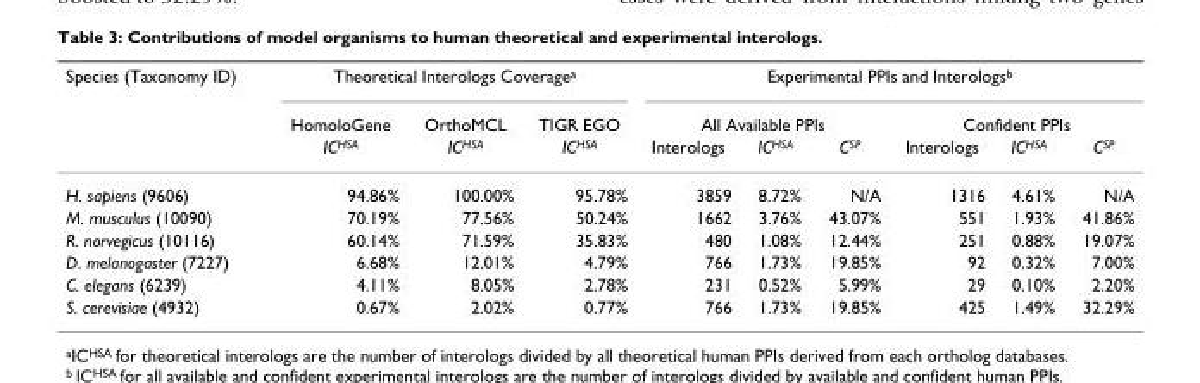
<table><thead><tr><td rowspan="3">Species (Taxonomy ID)</td><td colspan="3">Theoretical Interologs Coverage<sup>a</sup></td><td colspan="6">Experimental PPIs and Interologs<sup>b</sup></td></tr><tr><td rowspan="2">HomoloGene IC<sup>HSA</sup></td><td rowspan="2">OrthoMCL IC<sup>HSA</sup></td><td rowspan="2">TIGR EGO IC<sup>HSA</sup></td><td colspan="3">All Available PPIs</td><td colspan="3">Confident PPIs</td></tr><tr><td>Interologs</td><td>IC<sup>HSA</sup></td><td>C<sup>SP</sup></td><td>Interologs</td><td>IC<sup>HSA</sup></td><td>C<sup>SP</sup></td></tr></thead><tbody><tr><td>H. sapiens (9606)</td><td>94.86%</td><td>100.00%</td><td>95.78%</td><td>3859</td><td>8.72%</td><td>N/A</td><td>1316</td><td>4.61%</td><td>N/A</td></tr><tr><td>M. musculus (10090)</td><td>70.19%</td><td>77.56%</td><td>50.24%</td><td>1662</td><td>3.76%</td><td>43.07%</td><td>551</td><td>1.93%</td><td>41.86%</td></tr><tr><td>R. norvegicus (10116)</td><td>60.14%</td><td>71.59%</td><td>35.83%</td><td>480</td><td>1.08%</td><td>12.44%</td><td>251</td><td>0.88%</td><td>19.07%</td></tr><tr><td>D. melanogaster (7227)</td><td>6.68%</td><td>12.01%</td><td>4.79%</td><td>766</td><td>1.73%</td><td>19.85%</td><td>92</td><td>0.32%</td><td>7.00%</td></tr><tr><td>C. elegans (6239)</td><td>4.11%</td><td>8.05%</td><td>2.78%</td><td>231</td><td>0.52%</td><td>5.99%</td><td>29</td><td>0.10%</td><td>2.20%</td></tr><tr><td>S. cerevisiae (4932)</td><td>0.67%</td><td>2.02%</td><td>0.77%</td><td>766</td><td>1.73%</td><td>19.85%</td><td>425</td><td>1.49%</td><td>32.29%</td></tr></tbody></table>